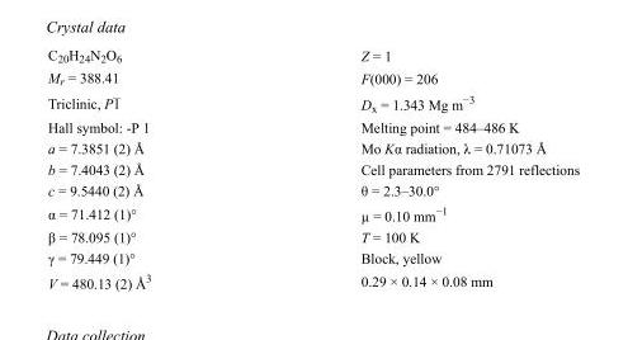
<table><tbody><tr><td>C<sub>20</sub>H<sub>24</sub>N<sub>2</sub>O<sub>6</sub></td><td>Z = 1</td></tr><tr><td>M<sub>r</sub> = 388.41</td><td>F(000) = 206</td></tr><tr><td>Triclinic, P1</td><td>D<sub>x</sub> = 1.343 Mg m<sup>−3</sup></td></tr><tr><td>Hall symbol: -P 1</td><td>Melting point = 484–486 K</td></tr><tr><td>a = 7.3851 (2) Å</td><td>Mo Kα radiation, λ = 0.71073 Å</td></tr><tr><td>b = 7.4043 (2) Å</td><td>Cell parameters from 2791 reflections</td></tr><tr><td>c = 9.5440 (2) Å</td><td>θ = 2.3–30.0°</td></tr><tr><td>α = 71.412 (1)°</td><td>µ = 0.10 mm<sup>−1</sup></td></tr><tr><td>β = 78.095 (1)°</td><td>T = 100 K</td></tr><tr><td>γ = 79.449 (1)°</td><td>Block, yellow</td></tr><tr><td>V = 480.13 (2) Å<sup>3</sup></td><td>0.29 × 0.14 × 0.08 mm</td></tr></tbody></table>